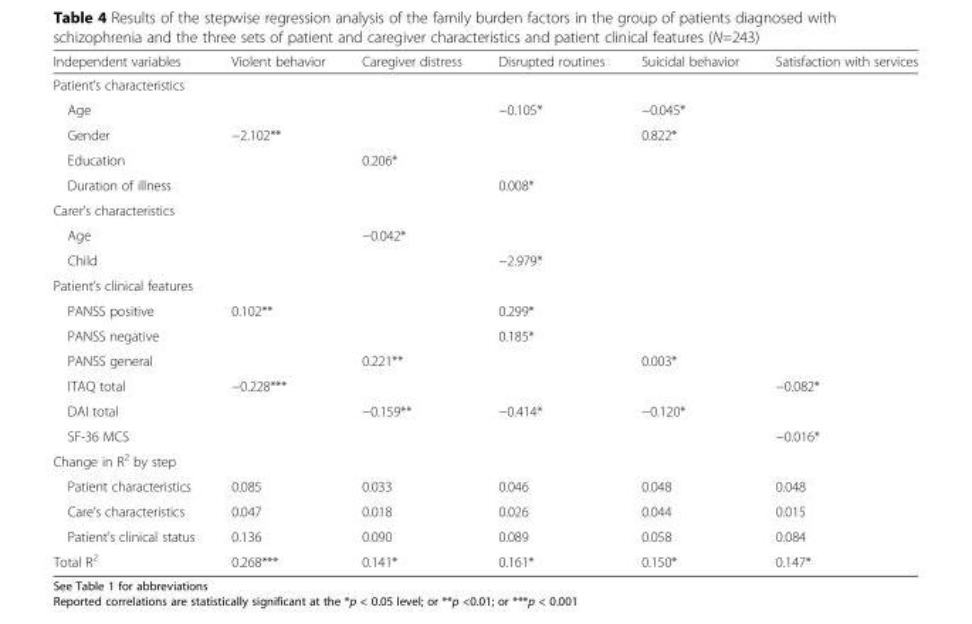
<table><thead><tr><td>Independent variables</td><td>Violent behavior</td><td>Caregiver distress</td><td>Disrupted routines</td><td>Suicidal behavior</td><td>Satisfaction with services</td></tr></thead><tbody><tr><td colspan="6">Patient’s characteristics</td></tr><tr><td>Age</td><td></td><td></td><td>−0.105*</td><td>−0.045*</td><td></td></tr><tr><td>Gender</td><td>−2.102**</td><td></td><td></td><td>0.822*</td><td></td></tr><tr><td>Education</td><td></td><td>0.206*</td><td></td><td></td><td></td></tr><tr><td colspan="2">Duration of illness</td><td></td><td>0.008*</td><td></td><td></td></tr><tr><td colspan="6">Carer’s characteristics</td></tr><tr><td colspan="2">Age</td><td>−0.042*</td><td></td><td></td><td></td></tr><tr><td colspan="2">Child</td><td></td><td>−2.979*</td><td></td><td></td></tr><tr><td colspan="6">Patient’s clinical features</td></tr><tr><td>PANSS positive</td><td>0.102**</td><td></td><td>0.299*</td><td></td><td></td></tr><tr><td>PANSS negative</td><td></td><td></td><td>0.185*</td><td></td><td></td></tr><tr><td>PANSS general</td><td></td><td>0.221**</td><td></td><td>0.003*</td><td></td></tr><tr><td>ITAQ total</td><td>−0.228***</td><td></td><td></td><td></td><td>−0.082*</td></tr><tr><td>DAI total</td><td></td><td>−0.159**</td><td>−0.414*</td><td>−0.120*</td><td></td></tr><tr><td>SF-36 MCS</td><td></td><td></td><td></td><td></td><td>−0.016*</td></tr><tr><td colspan="6">Change in R<sup>2</sup> by step</td></tr><tr><td>Patient characteristics</td><td>0.085</td><td>0.033</td><td>0.046</td><td>0.048</td><td>0.048</td></tr><tr><td>Care’s characteristics</td><td>0.047</td><td>0.018</td><td>0.026</td><td>0.044</td><td>0.015</td></tr><tr><td>Patient’s clinical status</td><td>0.136</td><td>0.090</td><td>0.089</td><td>0.058</td><td>0.084</td></tr><tr><td>Total R<sup>2</sup></td><td>0.268***</td><td>0.141*</td><td>0.161*</td><td>0.150*</td><td>0.147*</td></tr></tbody></table>